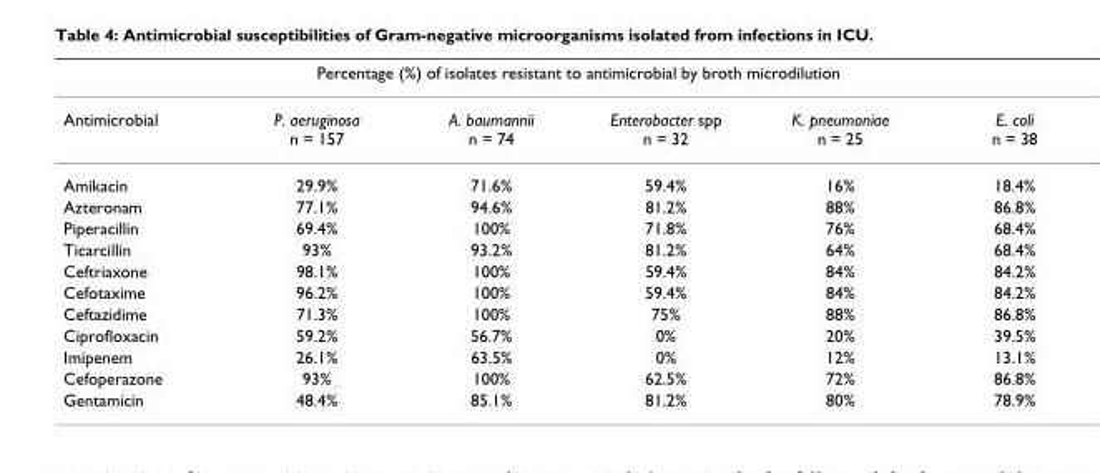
<table><thead><tr><td colspan="6">Percentage (%) of isolates resistant to antimicrobial by broth microdilution</td></tr><tr><td>Antimicrobial</td><td>P. aeruginosa n = 157</td><td>A. baumannii n = 74</td><td>Enterobacter spp n = 32</td><td>K. pneumoniae n = 25</td><td>E. coli n = 38</td></tr></thead><tbody><tr><td>Amikacin</td><td>29.9%</td><td>71.6%</td><td>59.4%</td><td>16%</td><td>18.4%</td></tr><tr><td>Azteronam</td><td>77.1%</td><td>94.6%</td><td>81.2%</td><td>88%</td><td>86.8%</td></tr><tr><td>Piperacillin</td><td>69.4%</td><td>100%</td><td>71.8%</td><td>76%</td><td>68.4%</td></tr><tr><td>Ticarcillin</td><td>93%</td><td>93.2%</td><td>81.2%</td><td>64%</td><td>68.4%</td></tr><tr><td>Ceftriaxone</td><td>98.1%</td><td>100%</td><td>59.4%</td><td>84%</td><td>84.2%</td></tr><tr><td>Cefotaxime</td><td>96.2%</td><td>100%</td><td>59.4%</td><td>84%</td><td>84.2%</td></tr><tr><td>Ceftazidime</td><td>71.3%</td><td>100%</td><td>75%</td><td>88%</td><td>86.8%</td></tr><tr><td>Ciprofloxacin</td><td>59.2%</td><td>56.7%</td><td>0%</td><td>20%</td><td>39.5%</td></tr><tr><td>Imipenem</td><td>26.1%</td><td>63.5%</td><td>0%</td><td>12%</td><td>13.1%</td></tr><tr><td>Cefoperazone</td><td>93%</td><td>100%</td><td>62.5%</td><td>72%</td><td>86.8%</td></tr><tr><td>Gentamicin</td><td>48.4%</td><td>85.1%</td><td>81.2%</td><td>80%</td><td>78.9%</td></tr></tbody></table>